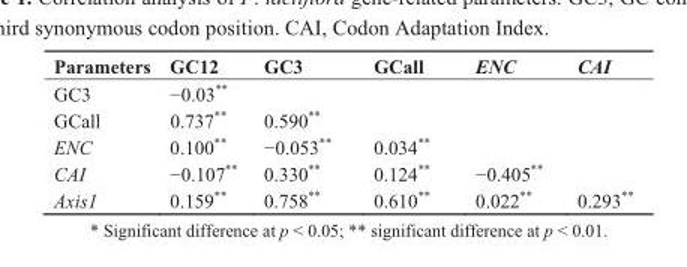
<table><thead><tr><td>Parameters</td><td>GC12</td><td>GC3</td><td>GCall</td><td>ENC</td><td>CAI</td></tr></thead><tbody><tr><td>GC3</td><td>−0.03**</td><td></td><td></td><td></td><td></td></tr><tr><td>GCall</td><td>0.737**</td><td>0.590**</td><td></td><td></td><td></td></tr><tr><td>ENC</td><td>0.100**</td><td>−0.053**</td><td>0.034**</td><td></td><td></td></tr><tr><td>CAI</td><td>−0.107**</td><td>0.330**</td><td>0.124**</td><td>−0.405**</td><td></td></tr><tr><td>Axis1</td><td>0.159**</td><td>0.758**</td><td>0.610**</td><td>0.022**</td><td>0.293**</td></tr></tbody></table>